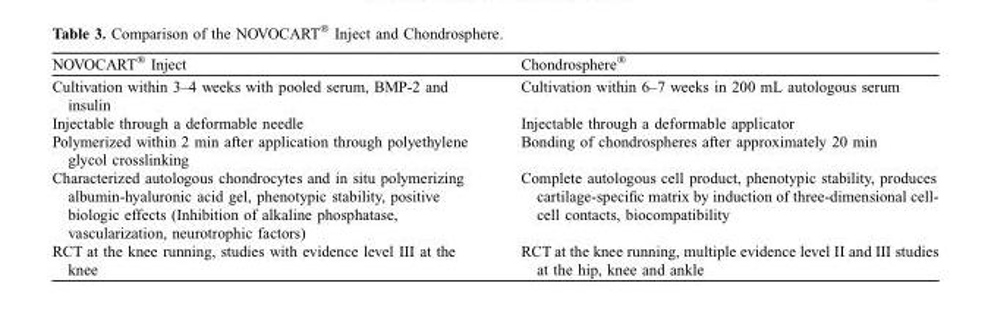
<table><thead><tr><td>NOVOCART<sup>®</sup> Inject</td><td>Chondrosphere<sup>®</sup></td></tr></thead><tbody><tr><td>Cultivation within 3–4 weeks with pooled serum, BMP-2 and insulin</td><td>Cultivation within 6–7 weeks in 200 mL autologous serum</td></tr><tr><td>Injectable through a deformable needle</td><td>Injectable through a deformable applicator</td></tr><tr><td>Polymerized within 2 min after application through polyethylene glycol crosslinking</td><td>Bonding of chondrospheres after approximately 20 min</td></tr><tr><td>Characterized autologous chondrocytes and in situ polymerizing albumin-hyaluronic acid gel, phenotypic stability, positive biologic effects (Inhibition of alkaline phosphatase, vascularization, neurotrophic factors)</td><td>Complete autologous cell product, phenotypic stability, produces cartilage-specific matrix by induction of three-dimensional cell- cell contacts, biocompatibility</td></tr><tr><td>RCT at the knee running, studies with evidence level III at the knee</td><td>RCT at the knee running, multiple evidence level II and III studies at the hip, knee and ankle</td></tr></tbody></table>